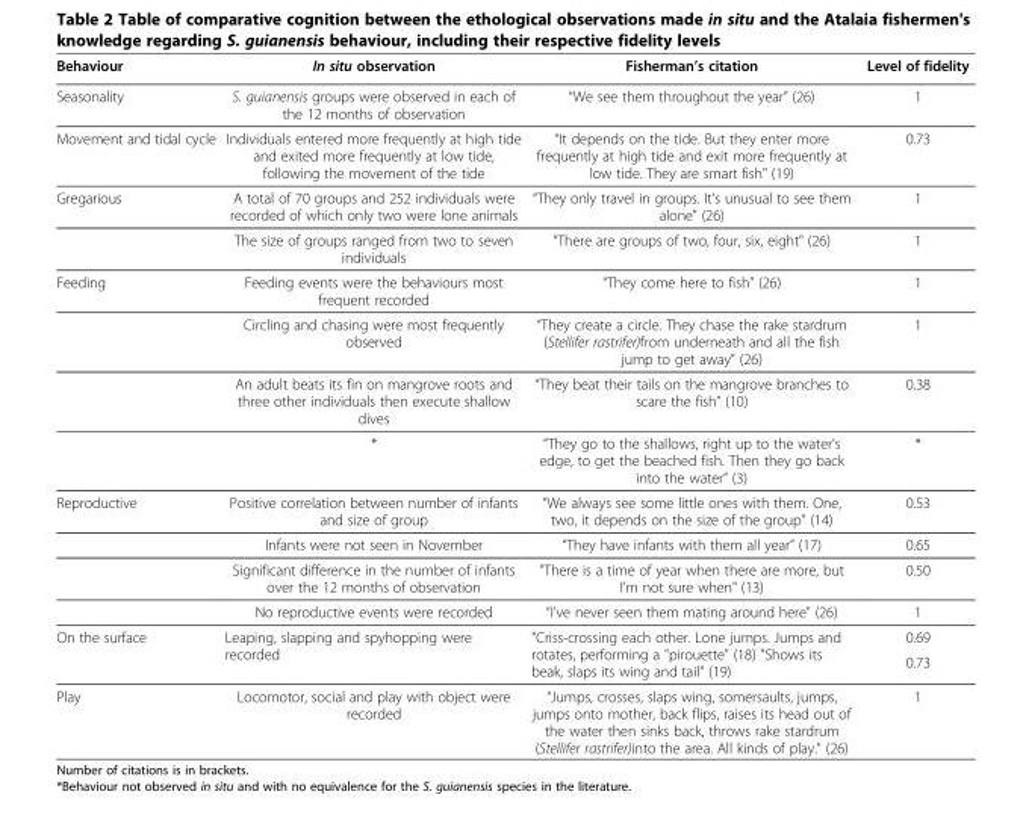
<table><thead><tr><td>Behaviour</td><td>In situ observation</td><td>Fisherman’s citation</td><td>Level of fidelity</td></tr></thead><tbody><tr><td>Seasonality</td><td>S. guianensis groups were observed in each of the 12 months of observation</td><td>“We see them throughout the year” (26)</td><td>1</td></tr><tr><td>Movement and tidal cycle</td><td>Individuals entered more frequently at high tide and exited more frequently at low tide, following the movement of the tide</td><td>“It depends on the tide. But they enter more frequently at high tide and exit more frequently at low tide. They are smart fish&quot; (19)</td><td>0.73</td></tr><tr><td rowspan="2">Gregarious</td><td>A total of 70 groups and 252 individuals were recorded of which only two were lone animals</td><td>“They only travel in groups. It&#x27;s unusual to see them alone&quot; (26)</td><td>1</td></tr><tr><td>The size of groups ranged from two to seven individuals</td><td>“There are groups of two, four, six, eight&quot; (26)</td><td>1</td></tr><tr><td rowspan="4">Feeding</td><td>Feeding events were the behaviours most frequent recorded</td><td>“They come here to fish” (26)</td><td>1</td></tr><tr><td>Circling and chasing were most frequently observed</td><td>“They create a circle. They chase the rake stardrum (Stellifer rastrifer)from underneath and all the fish jump to get away” (26)</td><td>1</td></tr><tr><td>An adult beats its fin on mangrove roots and three other individuals then execute shallow dives</td><td>“They beat their tails on the mangrove branches to scare the fish” (10)</td><td>0.38</td></tr><tr><td>*</td><td>“They go to the shallows, right up to the water&#x27;s edge, to get the beached fish. Then they go back into the water” (3)</td><td>*</td></tr><tr><td rowspan="4">Reproductive</td><td>Positive correlation between number of infants and size of group</td><td>“We always see some little ones with them. One, two, it depends on the size of the group” (14)</td><td>0.53</td></tr><tr><td>Infants were not seen in November</td><td>“They have infants with them all year” (17)</td><td>0.65</td></tr><tr><td>Significant difference in the number of infants over the 12 months of observation</td><td>&quot;There is a time of year when there are more, but I&#x27;m not sure when&quot; (13)</td><td>0.50</td></tr><tr><td>No reproductive events were recorded</td><td>“I&#x27;ve never seen them mating around here&quot; (26)</td><td>1</td></tr><tr><td rowspan="2">On the surface</td><td rowspan="2">Leaping, slapping and spyhopping were recorded</td><td rowspan="2">“Criss-crossing each other. Lone jumps. Jumps and rotates, performing a &quot;pirouette&quot; (18) &quot;Shows its beak, slaps its wing and tail&quot; (19)</td><td>0.69</td></tr><tr><td>0.73</td></tr><tr><td>Play</td><td>Locomotor, social and play with object were recorded</td><td>“Jumps, crosses, slaps wing, somersaults, jumps, jumps onto mother, back flips, raises its head out of the water then sinks back, throws rake stardrum (Stellifer rastrifer)into the area. All kinds of play.&quot; (26)</td><td>1</td></tr></tbody></table>